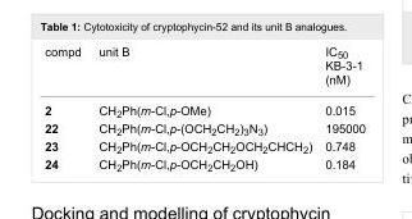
<table><tbody><tr><td>compd</td><td>unit B</td><td>IC<sub>50</sub> KB-3-1 (nM)</td></tr><tr><td>2</td><td>CH<sub>2</sub>Ph(m-Cl,p-OMe)</td><td>0.015</td></tr><tr><td>22</td><td>CH<sub>2</sub>Ph(m-Cl,p-(OCH<sub>2</sub>CH<sub>2</sub>)<sub>3</sub>N<sub>3</sub>)</td><td>195000</td></tr><tr><td>23</td><td>CH<sub>2</sub>Ph(m-Cl,p-OCH<sub>2</sub>CH<sub>2</sub>OCH<sub>2</sub>CHCH<sub>2</sub>)</td><td>0.748</td></tr><tr><td>24</td><td>CH<sub>2</sub>Ph(m-Cl,p-OCH<sub>2</sub>CH<sub>2</sub>OH)</td><td>0.184</td></tr></tbody></table>